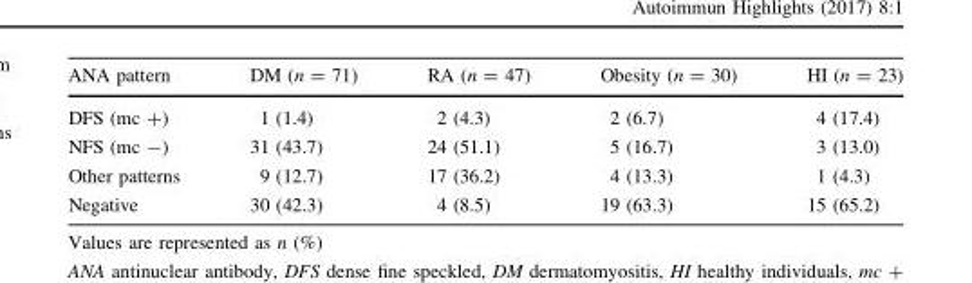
<table><thead><tr><td>ANA pattern</td><td>DM (n = 71)</td><td>RA (n = 47)</td><td>Obesity (n = 30)</td><td>HI (n = 23)</td></tr></thead><tbody><tr><td>DFS (mc +)</td><td>1 (1.4)</td><td>2 (4.3)</td><td>2 (6.7)</td><td>4 (17.4)</td></tr><tr><td>NFS (mc -)</td><td>31 (43.7)</td><td>24 (51.1)</td><td>5 (16.7)</td><td>3 (13.0)</td></tr><tr><td>Other patterns</td><td>9 (12.7)</td><td>17 (36.2)</td><td>4 (13.3)</td><td>1 (4.3)</td></tr><tr><td>Negative</td><td>30 (42.3)</td><td>4 (8.5)</td><td>19 (63.3)</td><td>15 (65.2)</td></tr></tbody></table>